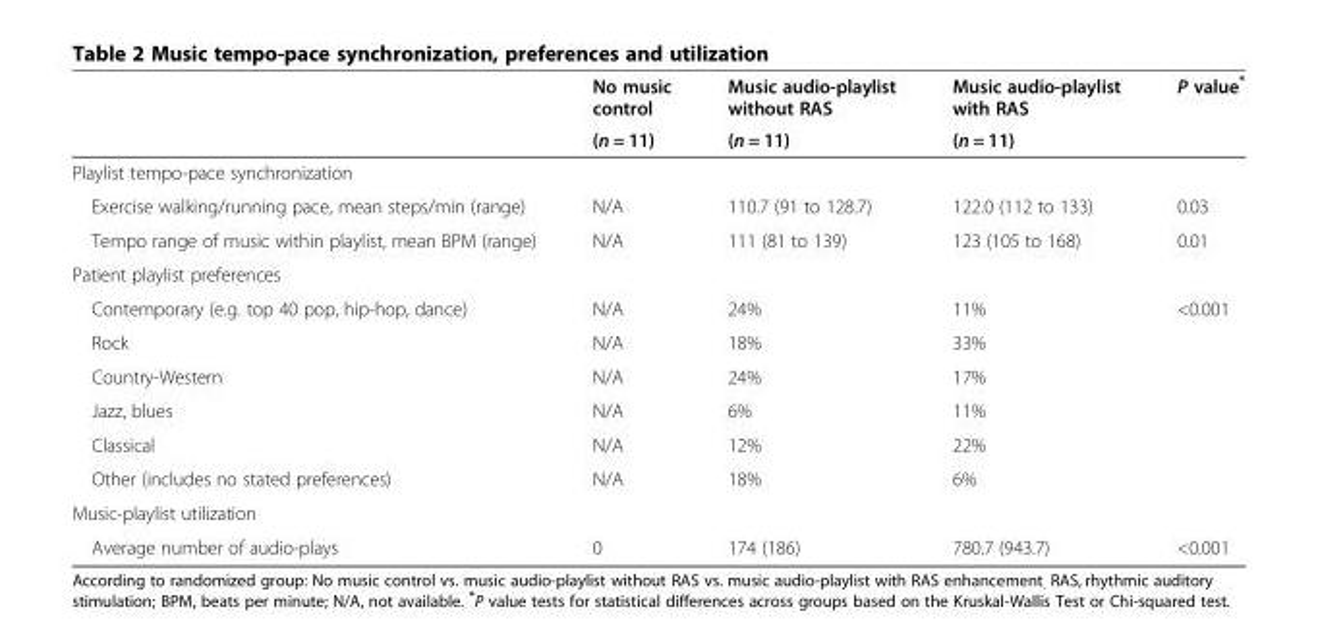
<table><thead><tr><td rowspan="2"></td><td rowspan="2">No music control (n = 11)</td><td rowspan="2">Music audio-playlist without RAS (n = 11)</td><td rowspan="2">Music audio-playlist with RAS (n = 11)</td><td rowspan="2">P value*</td></tr><tr></tr></thead><tbody><tr><td colspan="5">Playlist tempo-pace synchronization</td></tr><tr><td>Exercise walking/running pace, mean steps/min (range)</td><td>N/A</td><td>110.7 (91 to 128.7)</td><td>122.0 (112 to 133)</td><td>0.03</td></tr><tr><td>Tempo range of music within playlist, mean BPM (range)</td><td>N/A</td><td>111 (81 to 139)</td><td>123 (105 to 168)</td><td>0.01</td></tr><tr><td colspan="5">Patient playlist preferences</td></tr><tr><td>Contemporary (e.g. top 40 pop, hip-hop, dance)</td><td>N/A</td><td>24%</td><td>11%</td><td>&lt;0.001</td></tr><tr><td>Rock</td><td>N/A</td><td>18%</td><td>33%</td><td></td></tr><tr><td>Country-Western</td><td>N/A</td><td>24%</td><td>17%</td><td></td></tr><tr><td>Jazz, blues</td><td>N/A</td><td>6%</td><td>11%</td><td></td></tr><tr><td>Classical</td><td>N/A</td><td>12%</td><td>22%</td><td></td></tr><tr><td>Other (includes no stated preferences)</td><td>N/A</td><td>18%</td><td>6%</td><td></td></tr><tr><td colspan="5">Music-playlist utilization</td></tr><tr><td>Average number of audio-plays</td><td>0</td><td>174 (186)</td><td>780.7 (943.7)</td><td>&lt;0.001</td></tr></tbody></table>